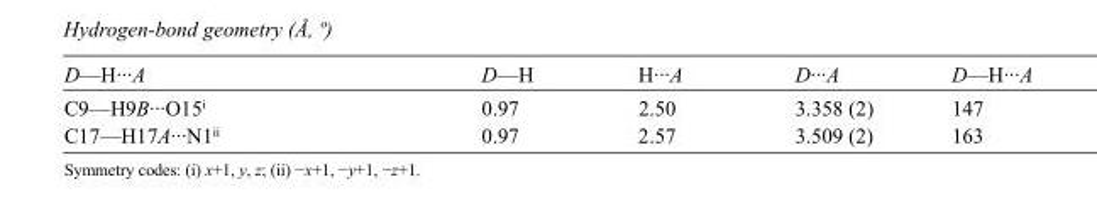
<table><tbody><tr><td>D—H···A</td><td>D—H</td><td>H···A</td><td>D···A</td><td>D—H···A</td></tr><tr><td>C9—H9B···O15<sup>i</sup></td><td>0.97</td><td>2.50</td><td>3.358 (2)</td><td>147</td></tr><tr><td>C17—H17A···N1<sup>ii</sup></td><td>0.97</td><td>2.57</td><td>3.509 (2)</td><td>163</td></tr></tbody></table>